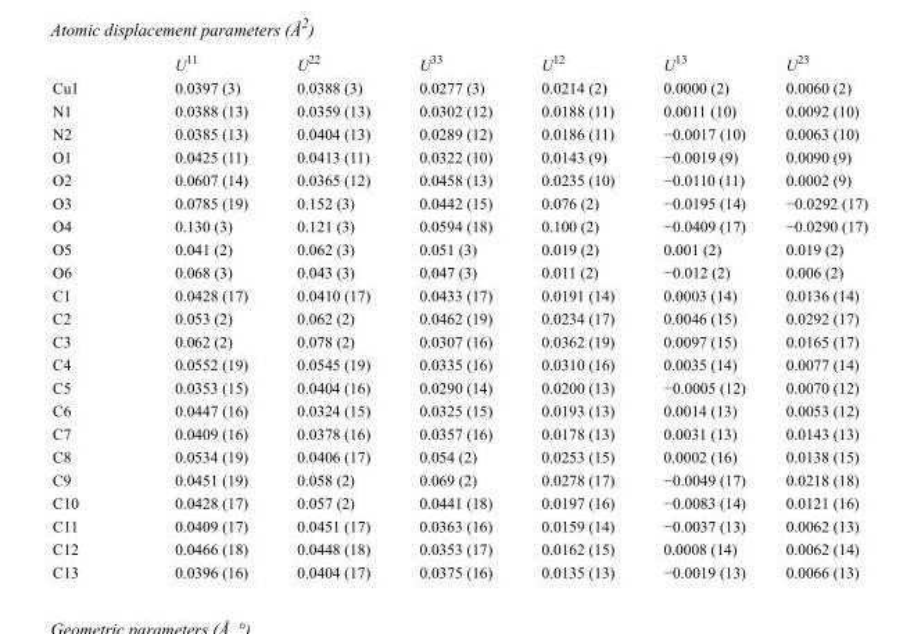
<table><thead><tr><td></td><td>U<sup>11</sup></td><td>U<sup>22</sup></td><td>U<sup>33</sup></td><td>U<sup>12</sup></td><td>U<sup>13</sup></td><td>U<sup>23</sup></td></tr></thead><tbody><tr><td>Cu1</td><td>0.0397 (3)</td><td>0.0388 (3)</td><td>0.0277 (3)</td><td>0.0214 (2)</td><td>0.0000 (2)</td><td>0.0060 (2)</td></tr><tr><td>N1</td><td>0.0388 (13)</td><td>0.0359 (13)</td><td>0.0302 (12)</td><td>0.0188 (11)</td><td>0.0011 (10)</td><td>0.0092 (10)</td></tr><tr><td>N2</td><td>0.0385 (13)</td><td>0.0404 (13)</td><td>0.0289 (12)</td><td>0.0186 (11)</td><td>−0.0017 (10)</td><td>0.0063 (10)</td></tr><tr><td>O1</td><td>0.0425 (11)</td><td>0.0413 (11)</td><td>0.0322 (10)</td><td>0.0143 (9)</td><td>−0.0019 (9)</td><td>0.0090 (9)</td></tr><tr><td>O2</td><td>0.0607 (14)</td><td>0.0365 (12)</td><td>0.0458 (13)</td><td>0.0235 (10)</td><td>−0.0110 (11)</td><td>0.0002 (9)</td></tr><tr><td>O3</td><td>0.0785 (19)</td><td>0.152 (3)</td><td>0.0442 (15)</td><td>0.076 (2)</td><td>−0.0195 (14)</td><td>−0.0292 (17)</td></tr><tr><td>O4</td><td>0.130 (3)</td><td>0.121 (3)</td><td>0.0594 (18)</td><td>0.100 (2)</td><td>−0.0409 (17)</td><td>−0.0290 (17)</td></tr><tr><td>O5</td><td>0.041 (2)</td><td>0.062 (3)</td><td>0.051 (3)</td><td>0.019 (2)</td><td>0.001 (2)</td><td>0.019 (2)</td></tr><tr><td>O6</td><td>0.068 (3)</td><td>0.043 (3)</td><td>0.047 (3)</td><td>0.011 (2)</td><td>−0.012 (2)</td><td>0.006 (2)</td></tr><tr><td>C1</td><td>0.0428 (17)</td><td>0.0410 (17)</td><td>0.0433 (17)</td><td>0.0191 (14)</td><td>0.0003 (14)</td><td>0.0136 (14)</td></tr><tr><td>C2</td><td>0.053 (2)</td><td>0.062 (2)</td><td>0.0462 (19)</td><td>0.0234 (17)</td><td>0.0046 (15)</td><td>0.0292 (17)</td></tr><tr><td>C3</td><td>0.062 (2)</td><td>0.078 (2)</td><td>0.0307 (16)</td><td>0.0362 (19)</td><td>0.0097 (15)</td><td>0.0165 (17)</td></tr><tr><td>C4</td><td>0.0552 (19)</td><td>0.0545 (19)</td><td>0.0335 (16)</td><td>0.0310 (16)</td><td>0.0035 (14)</td><td>0.0077 (14)</td></tr><tr><td>C5</td><td>0.0353 (15)</td><td>0.0404 (16)</td><td>0.0290 (14)</td><td>0.0200 (13)</td><td>−0.0005 (12)</td><td>0.0070 (12)</td></tr><tr><td>C6</td><td>0.0447 (16)</td><td>0.0324 (15)</td><td>0.0325 (15)</td><td>0.0193 (13)</td><td>0.0014 (13)</td><td>0.0053 (12)</td></tr><tr><td>C7</td><td>0.0409 (16)</td><td>0.0378 (16)</td><td>0.0357 (16)</td><td>0.0178 (13)</td><td>0.0031 (13)</td><td>0.0143 (13)</td></tr><tr><td>C8</td><td>0.0534 (19)</td><td>0.0406 (17)</td><td>0.054 (2)</td><td>0.0253 (15)</td><td>0.0002 (16)</td><td>0.0138 (15)</td></tr><tr><td>C9</td><td>0.0451 (19)</td><td>0.058 (2)</td><td>0.069 (2)</td><td>0.0278 (17)</td><td>−0.0049 (17)</td><td>0.0218 (18)</td></tr><tr><td>C10</td><td>0.0428 (17)</td><td>0.057 (2)</td><td>0.0441 (18)</td><td>0.0197 (16)</td><td>−0.0083 (14)</td><td>0.0121 (16)</td></tr><tr><td>C11</td><td>0.0409 (17)</td><td>0.0451 (17)</td><td>0.0363 (16)</td><td>0.0159 (14)</td><td>−0.0037 (13)</td><td>0.0062 (13)</td></tr><tr><td>C12</td><td>0.0466 (18)</td><td>0.0448 (18)</td><td>0.0353 (17)</td><td>0.0162 (15)</td><td>0.0008 (14)</td><td>0.0062 (14)</td></tr><tr><td>C13</td><td>0.0396 (16)</td><td>0.0404 (17)</td><td>0.0375 (16)</td><td>0.0135 (13)</td><td>−0.0019 (13)</td><td>0.0066 (13)</td></tr></tbody></table>